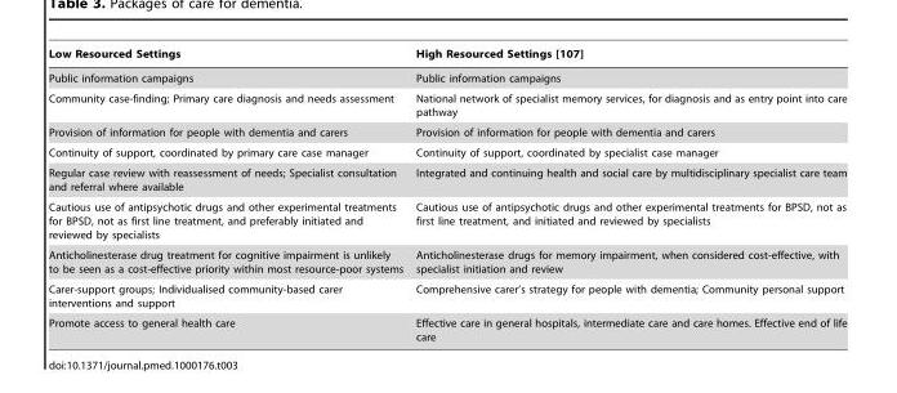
<table><thead><tr><td>Low Resourced Settings</td><td>High Resourced Settings [107]</td></tr></thead><tbody><tr><td>Public information campaigns</td><td>Public information campaigns</td></tr><tr><td>Community case-finding; Primary care diagnosis and needs assessment</td><td>National network of specialist memory services, for diagnosis and as entry point into care pathway</td></tr><tr><td>Provision of information for people with dementia and carers</td><td>Provision of information for people with dementia and carers</td></tr><tr><td>Continuity of support, coordinated by primary care case manager</td><td>Continuity of support, coordinated by specialist case manager</td></tr><tr><td>Regular case review with reassessment of needs; Specialist consultation and referral where available</td><td>Integrated and continuing health and social care by multidisciplinary specialist care team</td></tr><tr><td>Cautious use of antipsychotic drugs and other experimental treatments for BPSD, not as first line treatment, and preferably initiated and reviewed by specialists</td><td>Cautious use of antipsychotic drugs and other experimental treatments for BPSD, not as first line treatment, and initiated and reviewed by specialists</td></tr><tr><td>Anticholinesterase drug treatment for cognitive impairment is unlikely to be seen as a cost-effective priority within most resource-poor systems</td><td>Anticholinesterase drugs for memory impairment, when considered cost-effective, with specialist initiation and review</td></tr><tr><td>Carer-support groups; Individualised community-based carer interventions and support</td><td>Comprehensive carer’s strategy for people with dementia; Community personal support</td></tr><tr><td>Promote access to general health care</td><td>Effective care in general hospitals, intermediate care and care homes. Effective end of life care</td></tr></tbody></table>